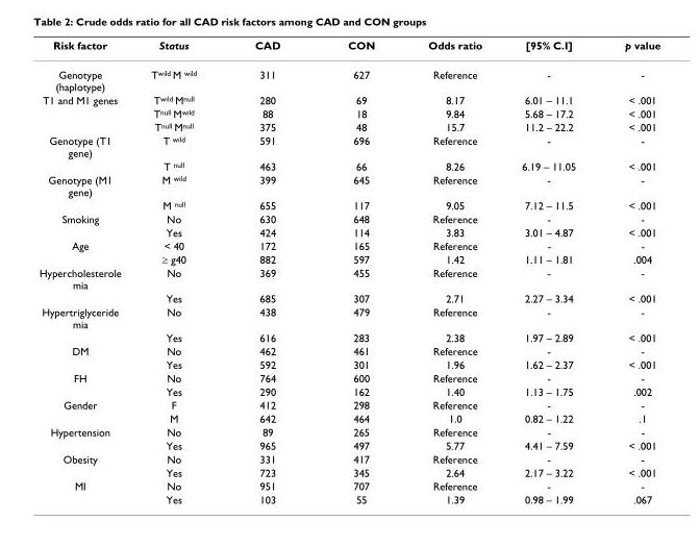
<table><thead><tr><td>Risk factor</td><td>Status</td><td>CAD</td><td>CON</td><td>Odds ratio</td><td>[95% C.I]</td><td>p value</td></tr></thead><tbody><tr><td>Genotype (haplotype)</td><td>T<sup>wild</sup> M <sup>wild</sup></td><td>311</td><td>627</td><td>Reference</td><td>-</td><td>-</td></tr><tr><td rowspan="3">T1 and M1 genes</td><td>T<sup>wild</sup> M<sup>null</sup></td><td>280</td><td>69</td><td>8.17</td><td>6.01 – 11.1</td><td>&lt; .001</td></tr><tr><td>T<sup>null</sup> M<sup>wild</sup></td><td>88</td><td>18</td><td>9.84</td><td>5.68 – 17.2</td><td>&lt; .001</td></tr><tr><td>T<sup>null</sup> M<sup>null</sup></td><td>375</td><td>48</td><td>15.7</td><td>11.2 – 22.2</td><td>&lt; .001</td></tr><tr><td rowspan="2">Genotype (T1 gene)</td><td>T <sup>wild</sup></td><td>591</td><td>696</td><td>Reference</td><td>-</td><td>-</td></tr><tr><td>T <sup>null</sup></td><td>463</td><td>66</td><td>8.26</td><td>6.19 – 11.05</td><td>&lt; .001</td></tr><tr><td rowspan="2">Genotype (M1 gene)</td><td>M <sup>wild</sup></td><td>399</td><td>645</td><td>Reference</td><td>-</td><td>-</td></tr><tr><td>M <sup>null</sup></td><td>655</td><td>117</td><td>9.05</td><td>7.12 – 11.5</td><td>&lt; .001</td></tr><tr><td rowspan="2">Smoking</td><td>No</td><td>630</td><td>648</td><td>Reference</td><td>-</td><td>-</td></tr><tr><td>Yes</td><td>424</td><td>114</td><td>3.83</td><td>3.01 – 4.87</td><td>&lt; .001</td></tr><tr><td rowspan="2">Age</td><td>&lt; 40</td><td>172</td><td>165</td><td>Reference</td><td>-</td><td>-</td></tr><tr><td>≥ g40</td><td>882</td><td>597</td><td>1.42</td><td>1.11 – 1.81</td><td>.004</td></tr><tr><td rowspan="2">Hypercholesterole mia</td><td>No</td><td>369</td><td>455</td><td>Reference</td><td>-</td><td>-</td></tr><tr><td>Yes</td><td>685</td><td>307</td><td>2.71</td><td>2.27 – 3.34</td><td>&lt; .001</td></tr><tr><td rowspan="2">Hypertriglyceride mia</td><td>No</td><td>438</td><td>479</td><td>Reference</td><td>-</td><td>-</td></tr><tr><td>Yes</td><td>616</td><td>283</td><td>2.38</td><td>1.97 – 2.89</td><td>&lt; .001</td></tr><tr><td rowspan="2">DM</td><td>No</td><td>462</td><td>461</td><td>Reference</td><td>-</td><td>-</td></tr><tr><td>Yes</td><td>592</td><td>301</td><td>1.96</td><td>1.62 – 2.37</td><td>&lt; .001</td></tr><tr><td rowspan="2">FH</td><td>No</td><td>764</td><td>600</td><td>Reference</td><td>-</td><td>-</td></tr><tr><td>Yes</td><td>290</td><td>162</td><td>1.40</td><td>1.13 – 1.75</td><td>.002</td></tr><tr><td rowspan="2">Gender</td><td>F</td><td>412</td><td>298</td><td>Reference</td><td>-</td><td>-</td></tr><tr><td>M</td><td>642</td><td>464</td><td>1.0</td><td>0.82 – 1.22</td><td>.1</td></tr><tr><td rowspan="2">Hypertension</td><td>No</td><td>89</td><td>265</td><td>Reference</td><td>-</td><td>-</td></tr><tr><td>Yes</td><td>965</td><td>497</td><td>5.77</td><td>4.41 – 7.59</td><td>&lt; .001</td></tr><tr><td rowspan="2">Obesity</td><td>No</td><td>331</td><td>417</td><td>Reference</td><td>-</td><td>-</td></tr><tr><td>Yes</td><td>723</td><td>345</td><td>2.64</td><td>2.17 – 3.22</td><td>&lt; .001</td></tr><tr><td rowspan="2">MI</td><td>No</td><td>951</td><td>707</td><td>Reference</td><td>-</td><td>-</td></tr><tr><td>Yes</td><td>103</td><td>55</td><td>1.39</td><td>0.98 – 1.99</td><td>.067</td></tr></tbody></table>